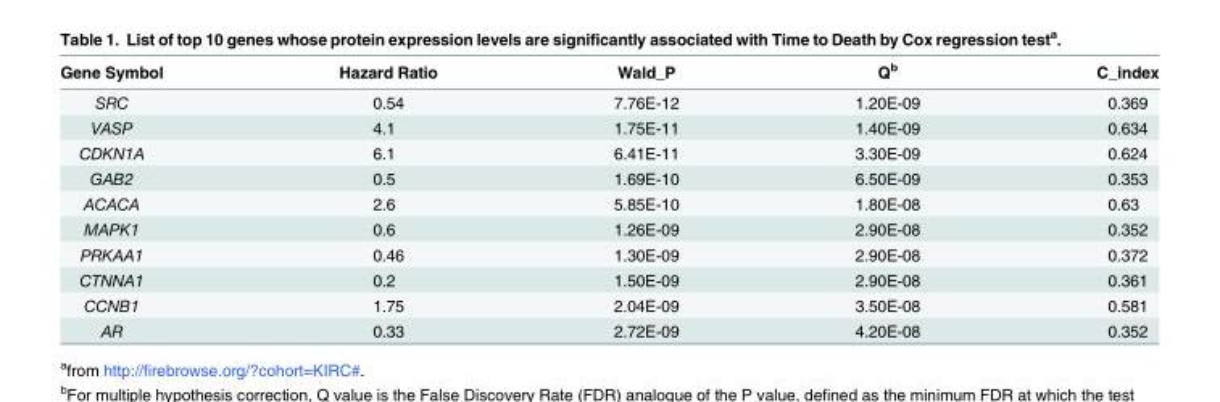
<table><thead><tr><td>Gene Symbol</td><td>Hazard Ratio</td><td>Wald_P</td><td>Q<sup>b</sup></td><td>C_index</td></tr></thead><tbody><tr><td>SRC</td><td>0.54</td><td>7.76E-12</td><td>1.20E-09</td><td>0.369</td></tr><tr><td>VASP</td><td>4.1</td><td>1.75E-11</td><td>1.40E-09</td><td>0.634</td></tr><tr><td>CDKN1A</td><td>6.1</td><td>6.41E-11</td><td>3.30E-09</td><td>0.624</td></tr><tr><td>GAB2</td><td>0.5</td><td>1.69E-10</td><td>6.50E-09</td><td>0.353</td></tr><tr><td>ACACA</td><td>2.6</td><td>5.85E-10</td><td>1.80E-08</td><td>0.63</td></tr><tr><td>MAPK1</td><td>0.6</td><td>1.26E-09</td><td>2.90E-08</td><td>0.352</td></tr><tr><td>PRKAA1</td><td>0.46</td><td>1.30E-09</td><td>2.90E-08</td><td>0.372</td></tr><tr><td>CTNNA1</td><td>0.2</td><td>1.50E-09</td><td>2.90E-08</td><td>0.361</td></tr><tr><td>CCNB1</td><td>1.75</td><td>2.04E-09</td><td>3.50E-08</td><td>0.581</td></tr><tr><td>AR</td><td>0.33</td><td>2.72E-09</td><td>4.20E-08</td><td>0.352</td></tr></tbody></table>